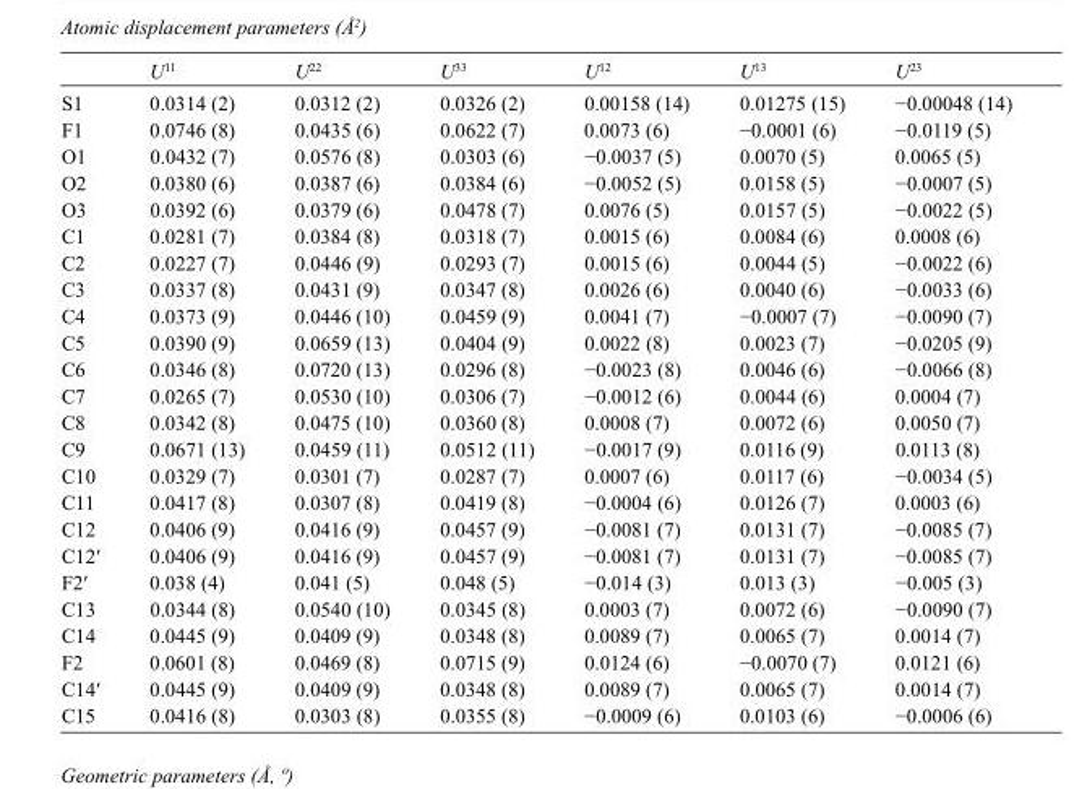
<table><thead><tr><td></td><td>U<sup>11</sup></td><td>U<sup>22</sup></td><td>U<sup>33</sup></td><td>U<sup>12</sup></td><td>U<sup>13</sup></td><td>U<sup>23</sup></td></tr></thead><tbody><tr><td>S1</td><td>0.0314 (2)</td><td>0.0312 (2)</td><td>0.0326 (2)</td><td>0.00158 (14)</td><td>0.01275 (15)</td><td>−0.00048 (14)</td></tr><tr><td>F1</td><td>0.0746 (8)</td><td>0.0435 (6)</td><td>0.0622 (7)</td><td>0.0073 (6)</td><td>−0.0001 (6)</td><td>−0.0119 (5)</td></tr><tr><td>O1</td><td>0.0432 (7)</td><td>0.0576 (8)</td><td>0.0303 (6)</td><td>−0.0037 (5)</td><td>0.0070 (5)</td><td>0.0065 (5)</td></tr><tr><td>O2</td><td>0.0380 (6)</td><td>0.0387 (6)</td><td>0.0384 (6)</td><td>−0.0052 (5)</td><td>0.0158 (5)</td><td>−0.0007 (5)</td></tr><tr><td>O3</td><td>0.0392 (6)</td><td>0.0379 (6)</td><td>0.0478 (7)</td><td>0.0076 (5)</td><td>0.0157 (5)</td><td>−0.0022 (5)</td></tr><tr><td>C1</td><td>0.0281 (7)</td><td>0.0384 (8)</td><td>0.0318 (7)</td><td>0.0015 (6)</td><td>0.0084 (6)</td><td>0.0008 (6)</td></tr><tr><td>C2</td><td>0.0227 (7)</td><td>0.0446 (9)</td><td>0.0293 (7)</td><td>0.0015 (6)</td><td>0.0044 (5)</td><td>−0.0022 (6)</td></tr><tr><td>C3</td><td>0.0337 (8)</td><td>0.0431 (9)</td><td>0.0347 (8)</td><td>0.0026 (6)</td><td>0.0040 (6)</td><td>−0.0033 (6)</td></tr><tr><td>C4</td><td>0.0373 (9)</td><td>0.0446 (10)</td><td>0.0459 (9)</td><td>0.0041 (7)</td><td>−0.0007 (7)</td><td>−0.0090 (7)</td></tr><tr><td>C5</td><td>0.0390 (9)</td><td>0.0659 (13)</td><td>0.0404 (9)</td><td>0.0022 (8)</td><td>0.0023 (7)</td><td>−0.0205 (9)</td></tr><tr><td>C6</td><td>0.0346 (8)</td><td>0.0720 (13)</td><td>0.0296 (8)</td><td>−0.0023 (8)</td><td>0.0046 (6)</td><td>−0.0066 (8)</td></tr><tr><td>C7</td><td>0.0265 (7)</td><td>0.0530 (10)</td><td>0.0306 (7)</td><td>−0.0012 (6)</td><td>0.0044 (6)</td><td>0.0004 (7)</td></tr><tr><td>C8</td><td>0.0342 (8)</td><td>0.0475 (10)</td><td>0.0360 (8)</td><td>0.0008 (7)</td><td>0.0072 (6)</td><td>0.0050 (7)</td></tr><tr><td>C9</td><td>0.0671 (13)</td><td>0.0459 (11)</td><td>0.0512 (11)</td><td>−0.0017 (9)</td><td>0.0116 (9)</td><td>0.0113 (8)</td></tr><tr><td>C10</td><td>0.0329 (7)</td><td>0.0301 (7)</td><td>0.0287 (7)</td><td>0.0007 (6)</td><td>0.0117 (6)</td><td>−0.0034 (5)</td></tr><tr><td>C11</td><td>0.0417 (8)</td><td>0.0307 (8)</td><td>0.0419 (8)</td><td>−0.0004 (6)</td><td>0.0126 (7)</td><td>0.0003 (6)</td></tr><tr><td>C12</td><td>0.0406 (9)</td><td>0.0416 (9)</td><td>0.0457 (9)</td><td>−0.0081 (7)</td><td>0.0131 (7)</td><td>−0.0085 (7)</td></tr><tr><td>C12′</td><td>0.0406 (9)</td><td>0.0416 (9)</td><td>0.0457 (9)</td><td>−0.0081 (7)</td><td>0.0131 (7)</td><td>−0.0085 (7)</td></tr><tr><td>F2′</td><td>0.038 (4)</td><td>0.041 (5)</td><td>0.048 (5)</td><td>−0.014 (3)</td><td>0.013 (3)</td><td>−0.005 (3)</td></tr><tr><td>C13</td><td>0.0344 (8)</td><td>0.0540 (10)</td><td>0.0345 (8)</td><td>0.0003 (7)</td><td>0.0072 (6)</td><td>−0.0090 (7)</td></tr><tr><td>C14</td><td>0.0445 (9)</td><td>0.0409 (9)</td><td>0.0348 (8)</td><td>0.0089 (7)</td><td>0.0065 (7)</td><td>0.0014 (7)</td></tr><tr><td>F2</td><td>0.0601 (8)</td><td>0.0469 (8)</td><td>0.0715 (9)</td><td>0.0124 (6)</td><td>−0.0070 (7)</td><td>0.0121 (6)</td></tr><tr><td>C14′</td><td>0.0445 (9)</td><td>0.0409 (9)</td><td>0.0348 (8)</td><td>0.0089 (7)</td><td>0.0065 (7)</td><td>0.0014 (7)</td></tr><tr><td>C15</td><td>0.0416 (8)</td><td>0.0303 (8)</td><td>0.0355 (8)</td><td>−0.0009 (6)</td><td>0.0103 (6)</td><td>−0.0006 (6)</td></tr></tbody></table>